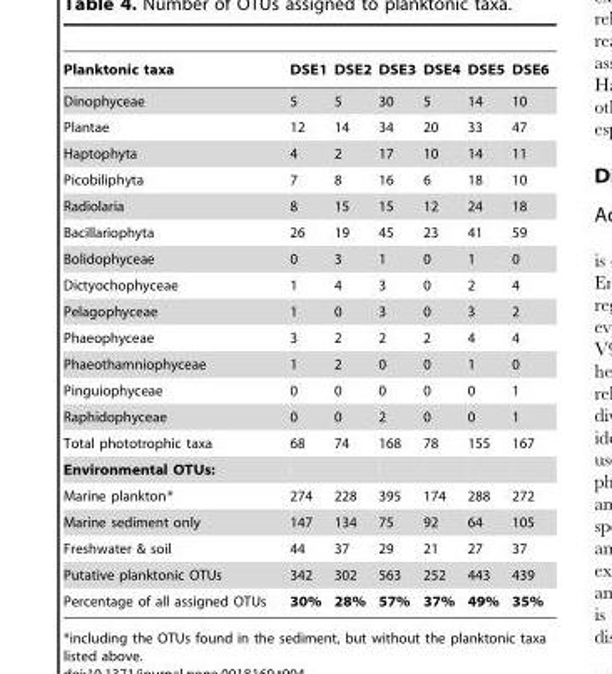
<table><thead><tr><td>Planktonic taxa</td><td>DSE1</td><td>DSE2</td><td>DSE3</td><td>DSE4</td><td>DSE5</td><td>DSE6</td></tr></thead><tbody><tr><td>Dinophyceae</td><td>5</td><td>5</td><td>30</td><td>5</td><td>14</td><td>10</td></tr><tr><td>Plantae</td><td>12</td><td>14</td><td>34</td><td>20</td><td>33</td><td>47</td></tr><tr><td>Haptophyta</td><td>4</td><td>2</td><td>17</td><td>10</td><td>14</td><td>11</td></tr><tr><td>Picobiliphyta</td><td>7</td><td>8</td><td>16</td><td>6</td><td>18</td><td>10</td></tr><tr><td>Radiolaria</td><td>8</td><td>15</td><td>15</td><td>12</td><td>24</td><td>18</td></tr><tr><td>Bacillariophyta</td><td>26</td><td>19</td><td>45</td><td>23</td><td>41</td><td>59</td></tr><tr><td>Bolidophyceae</td><td>0</td><td>3</td><td>1</td><td>0</td><td>1</td><td>0</td></tr><tr><td>Dictyochophyceae</td><td>1</td><td>4</td><td>3</td><td>0</td><td>2</td><td>4</td></tr><tr><td>Pelagophyceae</td><td>1</td><td>0</td><td>3</td><td>0</td><td>3</td><td>2</td></tr><tr><td>Phaeophyceae</td><td>3</td><td>2</td><td>2</td><td>2</td><td>4</td><td>4</td></tr><tr><td>Phaeothamniophyceae</td><td>1</td><td>2</td><td>0</td><td>0</td><td>1</td><td>0</td></tr><tr><td>Pinguiophyceae</td><td>0</td><td>0</td><td>0</td><td>0</td><td>0</td><td>1</td></tr><tr><td>Raphidophyceae</td><td>0</td><td>0</td><td>2</td><td>0</td><td>0</td><td>1</td></tr><tr><td>Total phototrophic taxa</td><td>68</td><td>74</td><td>168</td><td>78</td><td>155</td><td>167</td></tr><tr><td colspan="7">Environmental OTUs:</td></tr><tr><td>Marine plankton*</td><td>274</td><td>228</td><td>395</td><td>174</td><td>288</td><td>272</td></tr><tr><td>Marine sediment only</td><td>147</td><td>134</td><td>75</td><td>92</td><td>64</td><td>105</td></tr><tr><td>Freshwater &amp; soil</td><td>44</td><td>37</td><td>29</td><td>21</td><td>27</td><td>37</td></tr><tr><td>Putative planktonic OTUs</td><td>342</td><td>302</td><td>563</td><td>252</td><td>443</td><td>439</td></tr><tr><td>Percentage of all assigned OTUs</td><td>30%</td><td>28%</td><td>57%</td><td>37%</td><td>49%</td><td>35%</td></tr></tbody></table>